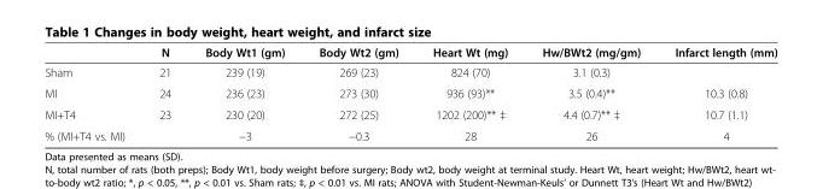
<table><thead><tr><td></td><td>N</td><td>Body Wt1 (gm)</td><td>Body Wt2 (gm)</td><td>Heart Wt (mg)</td><td>Hw/BWt2 (mg/gm)</td><td>Infarct length (mm)</td></tr></thead><tbody><tr><td>Sham</td><td>21</td><td>239 (19)</td><td>269 (23)</td><td>824 (70)</td><td>3.1 (0.3)</td><td></td></tr><tr><td>MI</td><td>24</td><td>236 (23)</td><td>273 (30)</td><td>936 (93)**</td><td>3.5 (0.4)**</td><td>10.3 (0.8)</td></tr><tr><td>MI+T4</td><td>23</td><td>230 (20)</td><td>272 (25)</td><td>1202 (200)** ‡</td><td>4.4 (0.7)** ‡</td><td>10.7 (1.1)</td></tr><tr><td>% (MI+T4 vs. MI)</td><td></td><td>−3</td><td>−0.3</td><td>28</td><td>26</td><td>4</td></tr></tbody></table>